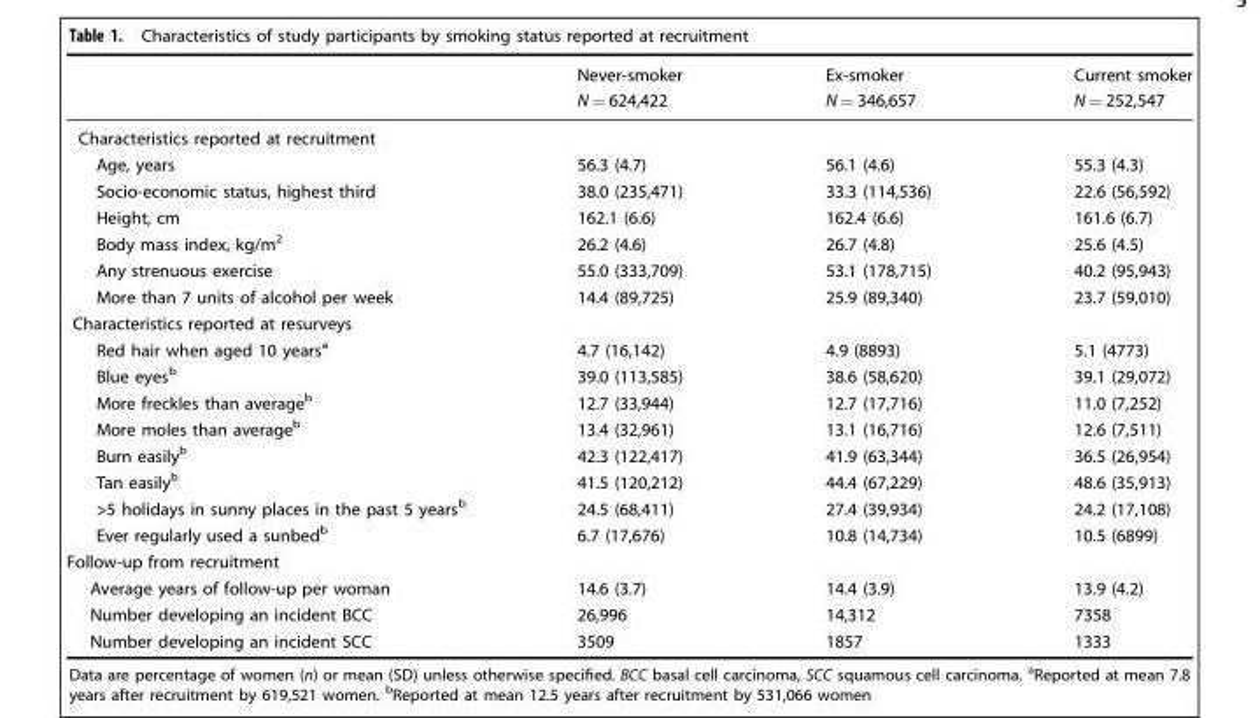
<table><thead><tr><td rowspan="2"></td><td rowspan="2">Never-smoker N = 624,422</td><td rowspan="2">Ex-smoker N = 346,657</td><td rowspan="2">Current smoker N = 252,547</td></tr><tr></tr></thead><tbody><tr><td colspan="4">Characteristics reported at recruitment</td></tr><tr><td>Age, years</td><td>56.3 (4.7)</td><td>56.1 (4.6)</td><td>55.3 (4.3)</td></tr><tr><td>Socio-economic status, highest third</td><td>38.0 (235,471)</td><td>33.3 (114,536)</td><td>22.6 (56,592)</td></tr><tr><td>Height, cm</td><td>162.1 (6.6)</td><td>162.4 (6.6)</td><td>161.6 (6.7)</td></tr><tr><td>Body mass index, kg/m<sup>2</sup></td><td>26.2 (4.6)</td><td>26.7 (4.8)</td><td>25.6 (4.5)</td></tr><tr><td>Any strenuous exercise</td><td>55.0 (333,709)</td><td>53.1 (178,715)</td><td>40.2 (95,943)</td></tr><tr><td>More than 7 units of alcohol per week</td><td>14.4 (89,725)</td><td>25.9 (89,340)</td><td>23.7 (59,010)</td></tr><tr><td colspan="4">Characteristics reported at resurveys</td></tr><tr><td>Red hair when aged 10 years<sup>a</sup></td><td>4.7 (16,142)</td><td>4.9 (8893)</td><td>5.1 (4773)</td></tr><tr><td>Blue eyes<sup>b</sup></td><td>39.0 (113,585)</td><td>38.6 (58,620)</td><td>39.1 (29,072)</td></tr><tr><td>More freckles than average<sup>b</sup></td><td>12.7 (33,944)</td><td>12.7 (17,716)</td><td>11.0 (7,252)</td></tr><tr><td>More moles than average<sup>b</sup></td><td>13.4 (32,961)</td><td>13.1 (16,716)</td><td>12.6 (7,511)</td></tr><tr><td>Burn easily<sup>b</sup></td><td>42.3 (122,417)</td><td>41.9 (63,344)</td><td>36.5 (26,954)</td></tr><tr><td>Tan easily<sup>b</sup></td><td>41.5 (120,212)</td><td>44.4 (67,229)</td><td>48.6 (35,913)</td></tr><tr><td>&gt;5 holidays in sunny places in the past 5 years<sup>b</sup></td><td>24.5 (68,411)</td><td>27.4 (39,934)</td><td>24.2 (17,108)</td></tr><tr><td>Ever regularly used a sunbed<sup>b</sup></td><td>6.7 (17,676)</td><td>10.8 (14,734)</td><td>10.5 (6899)</td></tr><tr><td colspan="4">Follow-up from recruitment</td></tr><tr><td>Average years of follow-up per woman</td><td>14.6 (3.7)</td><td>14.4 (3.9)</td><td>13.9 (4.2)</td></tr><tr><td>Number developing an incident BCC</td><td>26,996</td><td>14,312</td><td>7358</td></tr><tr><td>Number developing an incident SCC</td><td>3509</td><td>1857</td><td>1333</td></tr></tbody></table>